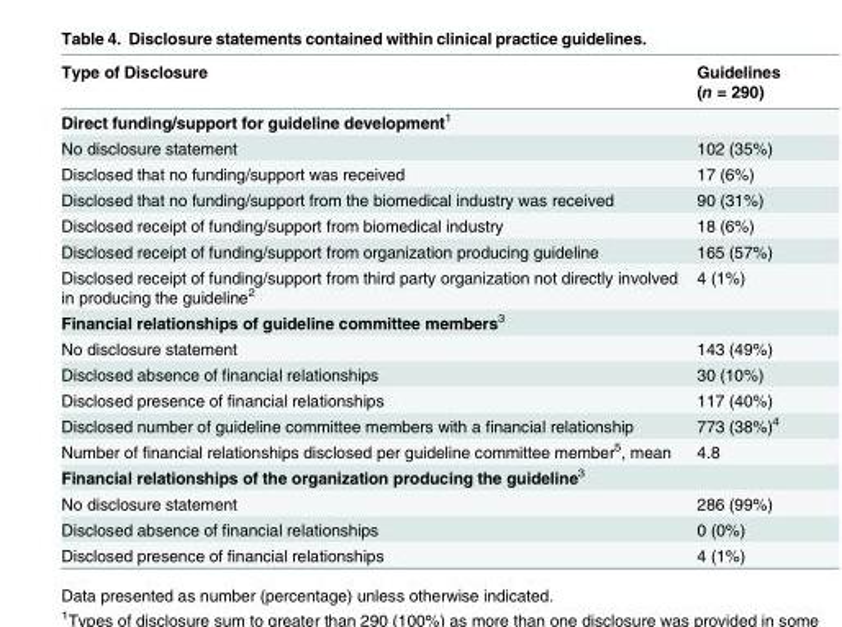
<table><thead><tr><td>Type of Disclosure</td><td>Guidelines (n = 290)</td></tr></thead><tbody><tr><td colspan="2">Direct funding/support for guideline development<sup>1</sup></td></tr><tr><td>No disclosure statement</td><td>102 (35%)</td></tr><tr><td>Disclosed that no funding/support was received</td><td>17 (6%)</td></tr><tr><td>Disclosed that no funding/support from the biomedical industry was received</td><td>90 (31%)</td></tr><tr><td>Disclosed receipt of funding/support from biomedical industry</td><td>18 (6%)</td></tr><tr><td>Disclosed receipt of funding/support from organization producing guideline</td><td>165 (57%)</td></tr><tr><td>Disclosed receipt of funding/support from third party organization not directly involved in producing the guideline<sup>2</sup></td><td>4 (1%)</td></tr><tr><td colspan="2">Financial relationships of guideline committee members<sup>3</sup></td></tr><tr><td>No disclosure statement</td><td>143 (49%)</td></tr><tr><td>Disclosed absence of financial relationships</td><td>30 (10%)</td></tr><tr><td>Disclosed presence of financial relationships</td><td>117 (40%)</td></tr><tr><td>Disclosed number of guideline committee members with a financial relationship</td><td>773 (38%)<sup>4</sup></td></tr><tr><td>Number of financial relationships disclosed per guideline committee member<sup>5</sup>, mean</td><td>4.8</td></tr><tr><td colspan="2">Financial relationships of the organization producing the guideline<sup>3</sup></td></tr><tr><td>No disclosure statement</td><td>286 (99%)</td></tr><tr><td>Disclosed absence of financial relationships</td><td>0 (0%)</td></tr><tr><td>Disclosed presence of financial relationships</td><td>4 (1%)</td></tr></tbody></table>